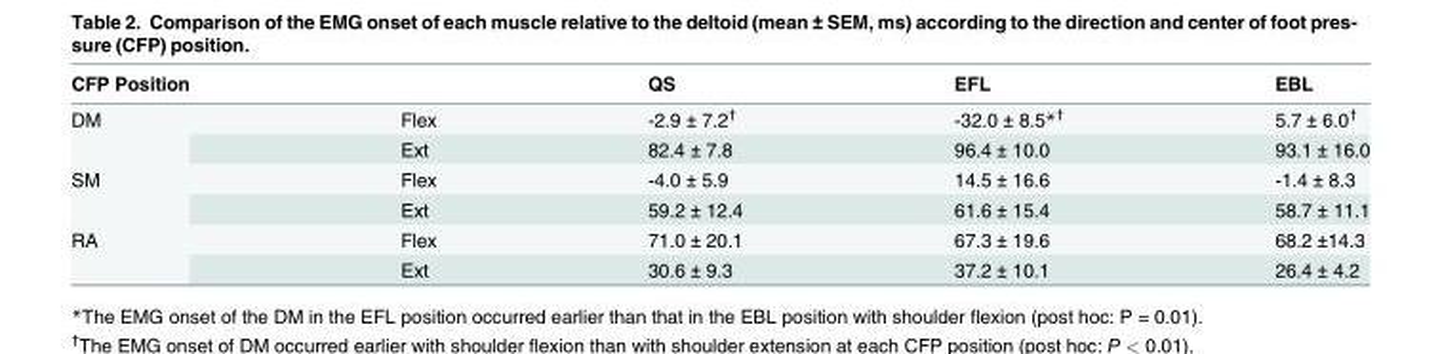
<table><thead><tr><td>CFP Position</td><td></td><td>QS</td><td>EFL</td><td>EBL</td></tr></thead><tbody><tr><td rowspan="2">DM</td><td>Flex</td><td>-2.9 ± 7.2<sup>†</sup></td><td>-32.0 ± 8.5*<sup>†</sup></td><td>5.7 ± 6.0<sup>†</sup></td></tr><tr><td>Ext</td><td>82.4 ± 7.8</td><td>96.4 ± 10.0</td><td>93.1 ± 16.0</td></tr><tr><td rowspan="2">SM</td><td>Flex</td><td>-4.0 ± 5.9</td><td>14.5 ± 16.6</td><td>-1.4 ± 8.3</td></tr><tr><td>Ext</td><td>59.2 ± 12.4</td><td>61.6 ± 15.4</td><td>58.7 ± 11.1</td></tr><tr><td rowspan="2">RA</td><td>Flex</td><td>71.0 ± 20.1</td><td>67.3 ± 19.6</td><td>68.2 ±14.3</td></tr><tr><td>Ext</td><td>30.6 ± 9.3</td><td>37.2 ± 10.1</td><td>26.4 ± 4.2</td></tr></tbody></table>